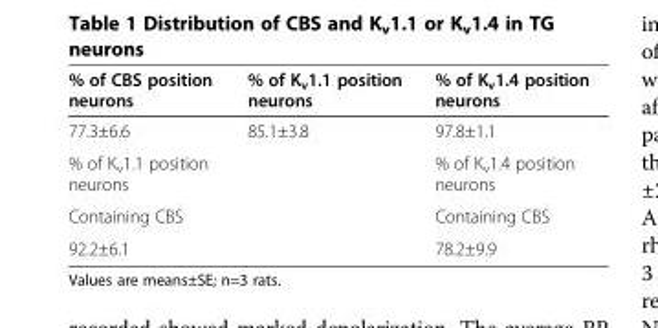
<table><thead><tr><td>% of CBS position neurons</td><td>% of K<sub>v</sub>1.1 position neurons</td><td>% of K<sub>v</sub>1.4 position neurons</td></tr></thead><tbody><tr><td>77.3±6.6</td><td>85.1±3.8</td><td>97.8±1.1</td></tr><tr><td>% of K<sub>v</sub>1.1 position neurons</td><td></td><td>% of K<sub>v</sub>1.4 position neurons</td></tr><tr><td>Containing CBS</td><td></td><td>Containing CBS</td></tr><tr><td>92.2±6.1</td><td></td><td>78.2±9.9</td></tr></tbody></table>